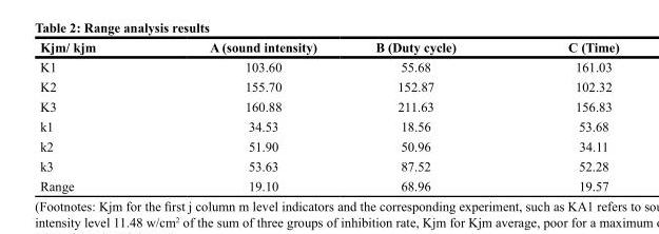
<table><thead><tr><td>Kjm/ kjm</td><td>A (sound intensity)</td><td>B (Duty cycle)</td><td>C (Time)</td></tr></thead><tbody><tr><td>K1</td><td>103.60</td><td>55.68</td><td>161.03</td></tr><tr><td>K2</td><td>155.70</td><td>152.87</td><td>102.32</td></tr><tr><td>K3</td><td>160.88</td><td>211.63</td><td>156.83</td></tr><tr><td>k1</td><td>34.53</td><td>18.56</td><td>53.68</td></tr><tr><td>k2</td><td>51.90</td><td>50.96</td><td>34.11</td></tr><tr><td>k3</td><td>53.63</td><td>87.52</td><td>52.28</td></tr><tr><td>Range</td><td>19.10</td><td>68.96</td><td>19.57</td></tr></tbody></table>